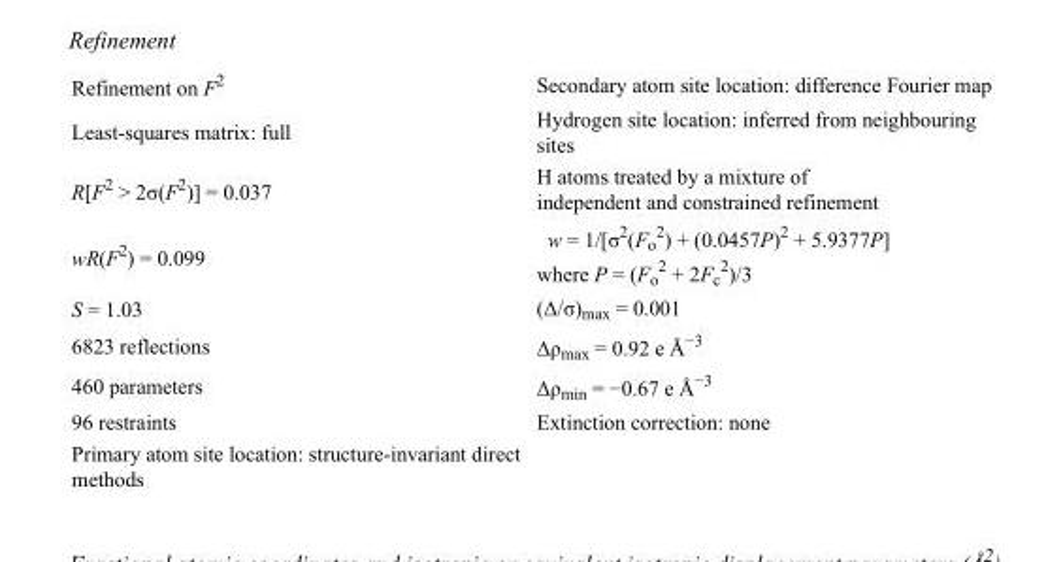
<table><tbody><tr><td>Refinement on F<sup>2</sup></td><td>Secondary atom site location: difference Fourier map</td></tr><tr><td>Least-squares matrix: full</td><td>Hydrogen site location: inferred from neighbouring sites</td></tr><tr><td>R[F<sup>2</sup> &gt; 2σ(F<sup>2</sup>)] = 0.037</td><td>H atoms treated by a mixture of independent and constrained refinement</td></tr><tr><td>wR(F<sup>2</sup>) = 0.099</td><td>w = 1/[σ<sup>2</sup>(F<sub>o</sub> <sup>2</sup>) + (0.0457P)<sup>2</sup> + 5.9377P] where P = (F<sub>o</sub> <sup>2</sup> + 2F<sub>c</sub> <sup>2</sup>)/3</td></tr><tr><td>S = 1.03</td><td>(Δ/σ)<sub>max</sub> = 0.001</td></tr><tr><td>6823 reflections</td><td>Δρ<sub>max</sub> = 0.92 e Å<sup>−3</sup></td></tr><tr><td>460 parameters</td><td>Δρ<sub>min</sub> = −0.67 e Å<sup>−3</sup></td></tr><tr><td>96 restraints</td><td>Extinction correction: none</td></tr><tr><td>Primary atom site location: structure-invariant direct methods</td><td></td></tr></tbody></table>